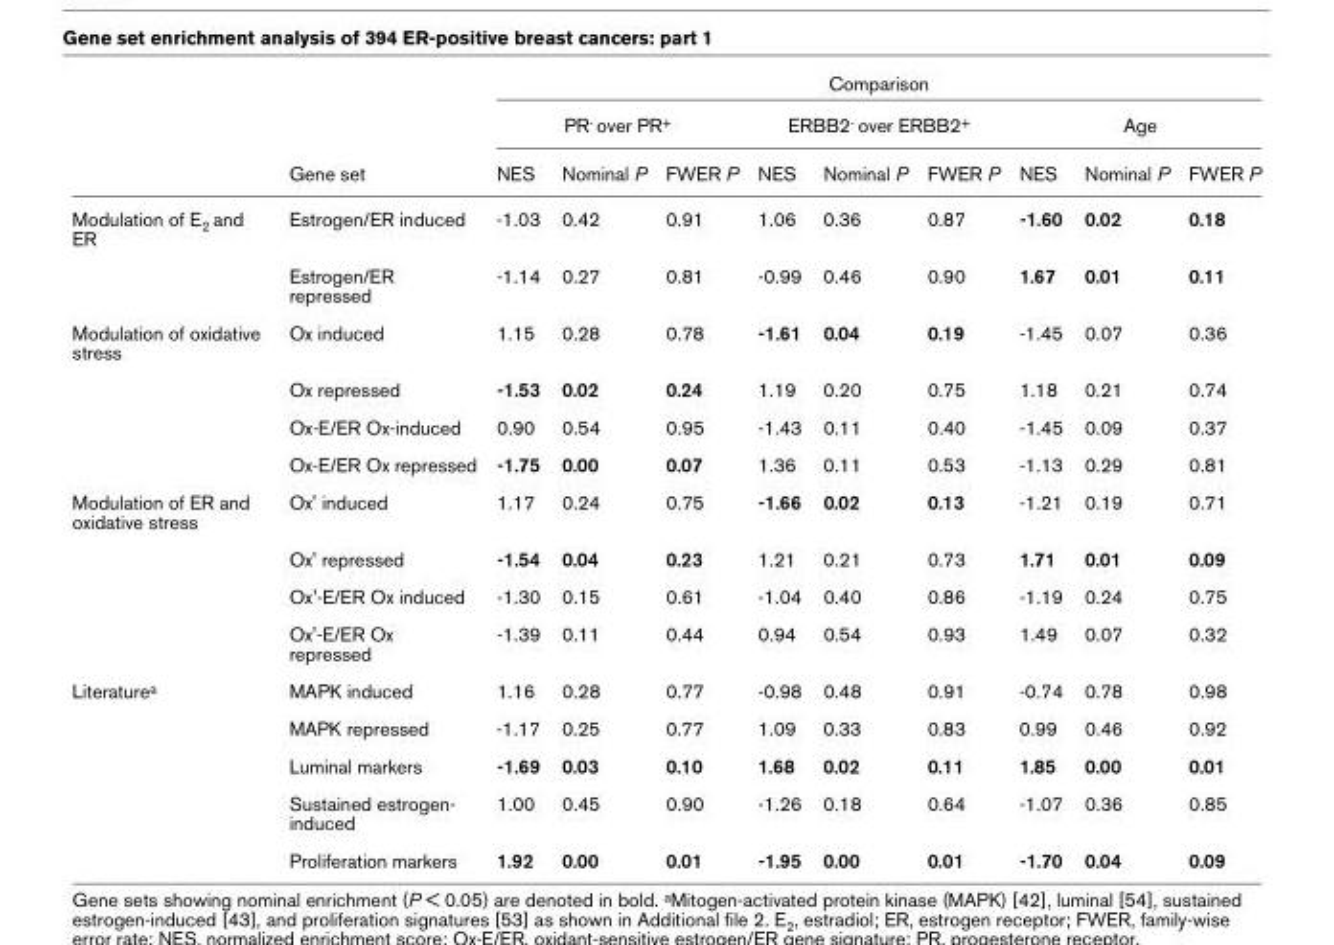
<table><thead><tr><td rowspan="3"></td><td rowspan="3">Gene set</td><td colspan="9">Comparison</td></tr><tr><td colspan="3">PR<sup>-</sup> over PR<sup>+</sup></td><td colspan="3">ERBB2<sup>-</sup> over ERBB2<sup>+</sup></td><td colspan="3">Age</td></tr><tr><td>NES</td><td>Nominal P</td><td>FWER P</td><td>NES</td><td>Nominal P</td><td>FWER P</td><td>NES</td><td>Nominal P</td><td>FWER P</td></tr></thead><tbody><tr><td rowspan="2">Modulation of E<sub>2</sub> and ER</td><td>Estrogen/ER induced</td><td>-1.03</td><td>0.42</td><td>0.91</td><td>1.06</td><td>0.36</td><td>0.87</td><td>-1.60</td><td>0.02</td><td>0.18</td></tr><tr><td>Estrogen/ER repressed</td><td>-1.14</td><td>0.27</td><td>0.81</td><td>-0.99</td><td>0.46</td><td>0.90</td><td>1.67</td><td>0.01</td><td>0.11</td></tr><tr><td rowspan="4">Modulation of oxidative stress</td><td>Ox induced</td><td>1.15</td><td>0.28</td><td>0.78</td><td>-1.61</td><td>0.04</td><td>0.19</td><td>-1.45</td><td>0.07</td><td>0.36</td></tr><tr><td>Ox repressed</td><td>-1.53</td><td>0.02</td><td>0.24</td><td>1.19</td><td>0.20</td><td>0.75</td><td>1.18</td><td>0.21</td><td>0.74</td></tr><tr><td>Ox-E/ER Ox-induced</td><td>0.90</td><td>0.54</td><td>0.95</td><td>-1.43</td><td>0.11</td><td>0.40</td><td>-1.45</td><td>0.09</td><td>0.37</td></tr><tr><td>Ox-E/ER Ox repressed</td><td>-1.75</td><td>0.00</td><td>0.07</td><td>1.36</td><td>0.11</td><td>0.53</td><td>-1.13</td><td>0.29</td><td>0.81</td></tr><tr><td rowspan="4">Modulation of ER and oxidative stress</td><td>Ox&#x27; induced</td><td>1.17</td><td>0.24</td><td>0.75</td><td>-1.66</td><td>0.02</td><td>0.13</td><td>-1.21</td><td>0.19</td><td>0.71</td></tr><tr><td>Ox&#x27; repressed</td><td>-1.54</td><td>0.04</td><td>0.23</td><td>1.21</td><td>0.21</td><td>0.73</td><td>1.71</td><td>0.01</td><td>0.09</td></tr><tr><td>Ox&#x27;-E/ER Ox induced</td><td>-1.30</td><td>0.15</td><td>0.61</td><td>-1.04</td><td>0.40</td><td>0.86</td><td>-1.19</td><td>0.24</td><td>0.75</td></tr><tr><td>Ox&#x27;-E/ER Ox repressed</td><td>-1.39</td><td>0.11</td><td>0.44</td><td>0.94</td><td>0.54</td><td>0.93</td><td>1.49</td><td>0.07</td><td>0.32</td></tr><tr><td rowspan="5">Literature<sup>a</sup></td><td>MAPK induced</td><td>1.16</td><td>0.28</td><td>0.77</td><td>-0.98</td><td>0.48</td><td>0.91</td><td>-0.74</td><td>0.78</td><td>0.98</td></tr><tr><td>MAPK repressed</td><td>-1.17</td><td>0.25</td><td>0.77</td><td>1.09</td><td>0.33</td><td>0.83</td><td>0.99</td><td>0.46</td><td>0.92</td></tr><tr><td>Luminal markers</td><td>-1.69</td><td>0.03</td><td>0.10</td><td>1.68</td><td>0.02</td><td>0.11</td><td>1.85</td><td>0.00</td><td>0.01</td></tr><tr><td>Sustained estrogen- induced</td><td>1.00</td><td>0.45</td><td>0.90</td><td>-1.26</td><td>0.18</td><td>0.64</td><td>-1.07</td><td>0.36</td><td>0.85</td></tr><tr><td>Proliferation markers</td><td>1.92</td><td>0.00</td><td>0.01</td><td>-1.95</td><td>0.00</td><td>0.01</td><td>-1.70</td><td>0.04</td><td>0.09</td></tr></tbody></table>